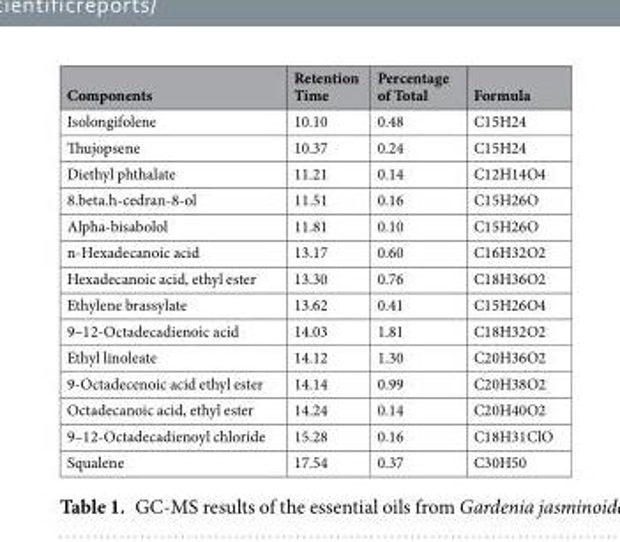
<table><thead><tr><td>Components</td><td>Retention Time</td><td>Percentage of Total</td><td>Formula</td></tr></thead><tbody><tr><td>Isolongifolene</td><td>10.10</td><td>0.48</td><td>C15H24</td></tr><tr><td>Thujopsene</td><td>10.37</td><td>0.24</td><td>C15H24</td></tr><tr><td>Diethyl phthalate</td><td>11.21</td><td>0.14</td><td>C12H14O4</td></tr><tr><td>8.beta.h-cedran-8-ol</td><td>11.51</td><td>0.16</td><td>C15H26O</td></tr><tr><td>Alpha-bisabolol</td><td>11.81</td><td>0.10</td><td>C15H26O</td></tr><tr><td>n-Hexadecanoic acid</td><td>13.17</td><td>0.60</td><td>C16H32O2</td></tr><tr><td>Hexadecanoic acid, ethyl ester</td><td>13.30</td><td>0.76</td><td>C18H36O2</td></tr><tr><td>Ethylene brassylate</td><td>13.62</td><td>0.41</td><td>C15H26O4</td></tr><tr><td>9–12-Octadecadienoic acid</td><td>14.03</td><td>1.81</td><td>C18H32O2</td></tr><tr><td>Ethyl linoleate</td><td>14.12</td><td>1.30</td><td>C20H36O2</td></tr><tr><td>9-Octadecenoic acid ethyl ester</td><td>14.14</td><td>0.99</td><td>C20H38O2</td></tr><tr><td>Octadecanoic acid, ethyl ester</td><td>14.24</td><td>0.14</td><td>C20H40O2</td></tr><tr><td>9–12-Octadecadienoyl chloride</td><td>15.28</td><td>0.16</td><td>C18H31ClO</td></tr><tr><td>Squalene</td><td>17.54</td><td>0.37</td><td>C30H50</td></tr></tbody></table>